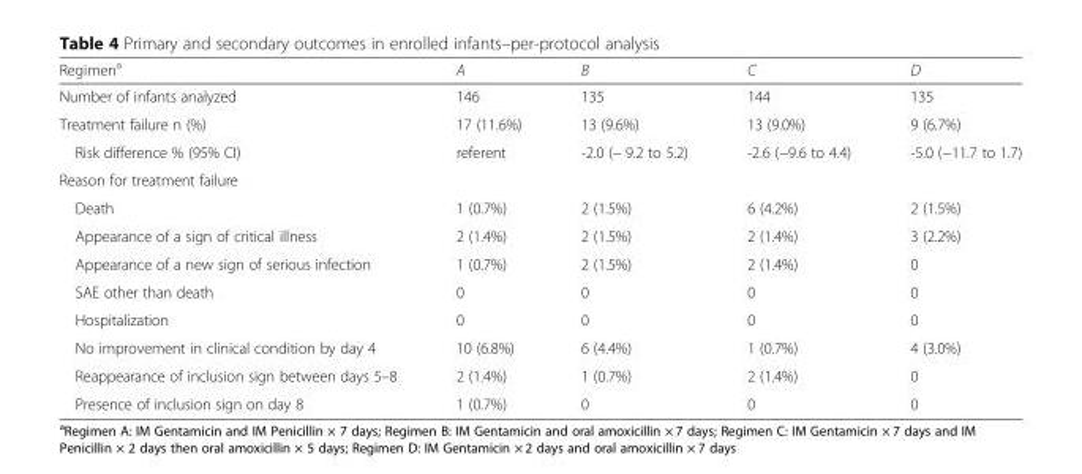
<table><thead><tr><td>Regimen<sup>a</sup></td><td>A</td><td>B</td><td>C</td><td>D</td></tr></thead><tbody><tr><td>Number of infants analyzed</td><td>146</td><td>135</td><td>144</td><td>135</td></tr><tr><td>Treatment failure n (%)</td><td>17 (11.6%)</td><td>13 (9.6%)</td><td>13 (9.0%)</td><td>9 (6.7%)</td></tr><tr><td>Risk difference % (95% CI)</td><td>referent</td><td>-2.0 (− 9.2 to 5.2)</td><td>-2.6 (−9.6 to 4.4)</td><td>-5.0 (−11.7 to 1.7)</td></tr><tr><td colspan="5">Reason for treatment failure</td></tr><tr><td>Death</td><td>1 (0.7%)</td><td>2 (1.5%)</td><td>6 (4.2%)</td><td>2 (1.5%)</td></tr><tr><td>Appearance of a sign of critical illness</td><td>2 (1.4%)</td><td>2 (1.5%)</td><td>2 (1.4%)</td><td>3 (2.2%)</td></tr><tr><td>Appearance of a new sign of serious infection</td><td>1 (0.7%)</td><td>2 (1.5%)</td><td>2 (1.4%)</td><td>0</td></tr><tr><td>SAE other than death</td><td>0</td><td>0</td><td>0</td><td>0</td></tr><tr><td>Hospitalization</td><td>0</td><td>0</td><td>0</td><td>0</td></tr><tr><td>No improvement in clinical condition by day 4</td><td>10 (6.8%)</td><td>6 (4.4%)</td><td>1 (0.7%)</td><td>4 (3.0%)</td></tr><tr><td>Reappearance of inclusion sign between days 5–8</td><td>2 (1.4%)</td><td>1 (0.7%)</td><td>2 (1.4%)</td><td>0</td></tr><tr><td>Presence of inclusion sign on day 8</td><td>1 (0.7%)</td><td>0</td><td>0</td><td>0</td></tr></tbody></table>